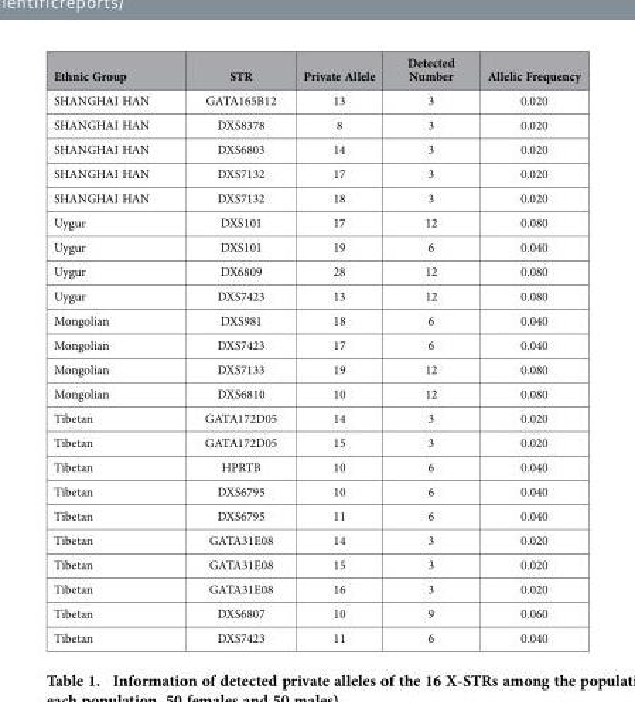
<table><thead><tr><td>Ethnic Group</td><td>STR</td><td>Private Allele</td><td>Detected Number</td><td>Allelic Frequency</td></tr></thead><tbody><tr><td>SHANGHAI HAN</td><td>GATA165B12</td><td>13</td><td>3</td><td>0.020</td></tr><tr><td>SHANGHAI HAN</td><td>DXS8378</td><td>8</td><td>3</td><td>0.020</td></tr><tr><td>SHANGHAI HAN</td><td>DXS6803</td><td>14</td><td>3</td><td>0.020</td></tr><tr><td>SHANGHAI HAN</td><td>DXS7132</td><td>17</td><td>3</td><td>0.020</td></tr><tr><td>SHANGHAI HAN</td><td>DXS7132</td><td>18</td><td>3</td><td>0.020</td></tr><tr><td>Uygur</td><td>DXS101</td><td>17</td><td>12</td><td>0.080</td></tr><tr><td>Uygur</td><td>DXS101</td><td>19</td><td>6</td><td>0.040</td></tr><tr><td>Uygur</td><td>DX6809</td><td>28</td><td>12</td><td>0.080</td></tr><tr><td>Uygur</td><td>DXS7423</td><td>13</td><td>12</td><td>0.080</td></tr><tr><td>Mongolian</td><td>DXS981</td><td>18</td><td>6</td><td>0.040</td></tr><tr><td>Mongolian</td><td>DXS7423</td><td>17</td><td>6</td><td>0.040</td></tr><tr><td>Mongolian</td><td>DXS7133</td><td>19</td><td>12</td><td>0.080</td></tr><tr><td>Mongolian</td><td>DXS6810</td><td>10</td><td>12</td><td>0.080</td></tr><tr><td>Tibetan</td><td>GATA172D05</td><td>14</td><td>3</td><td>0.020</td></tr><tr><td>Tibetan</td><td>GATA172D05</td><td>15</td><td>3</td><td>0.020</td></tr><tr><td>Tibetan</td><td>HPRTB</td><td>10</td><td>6</td><td>0.040</td></tr><tr><td>Tibetan</td><td>DXS6795</td><td>10</td><td>6</td><td>0.040</td></tr><tr><td>Tibetan</td><td>DXS6795</td><td>11</td><td>6</td><td>0.040</td></tr><tr><td>Tibetan</td><td>GATA31E08</td><td>14</td><td>3</td><td>0.020</td></tr><tr><td>Tibetan</td><td>GATA31E08</td><td>15</td><td>3</td><td>0.020</td></tr><tr><td>Tibetan</td><td>GATA31E08</td><td>16</td><td>3</td><td>0.020</td></tr><tr><td>Tibetan</td><td>DXS6807</td><td>10</td><td>9</td><td>0.060</td></tr><tr><td>Tibetan</td><td>DXS7423</td><td>11</td><td>6</td><td>0.040</td></tr></tbody></table>